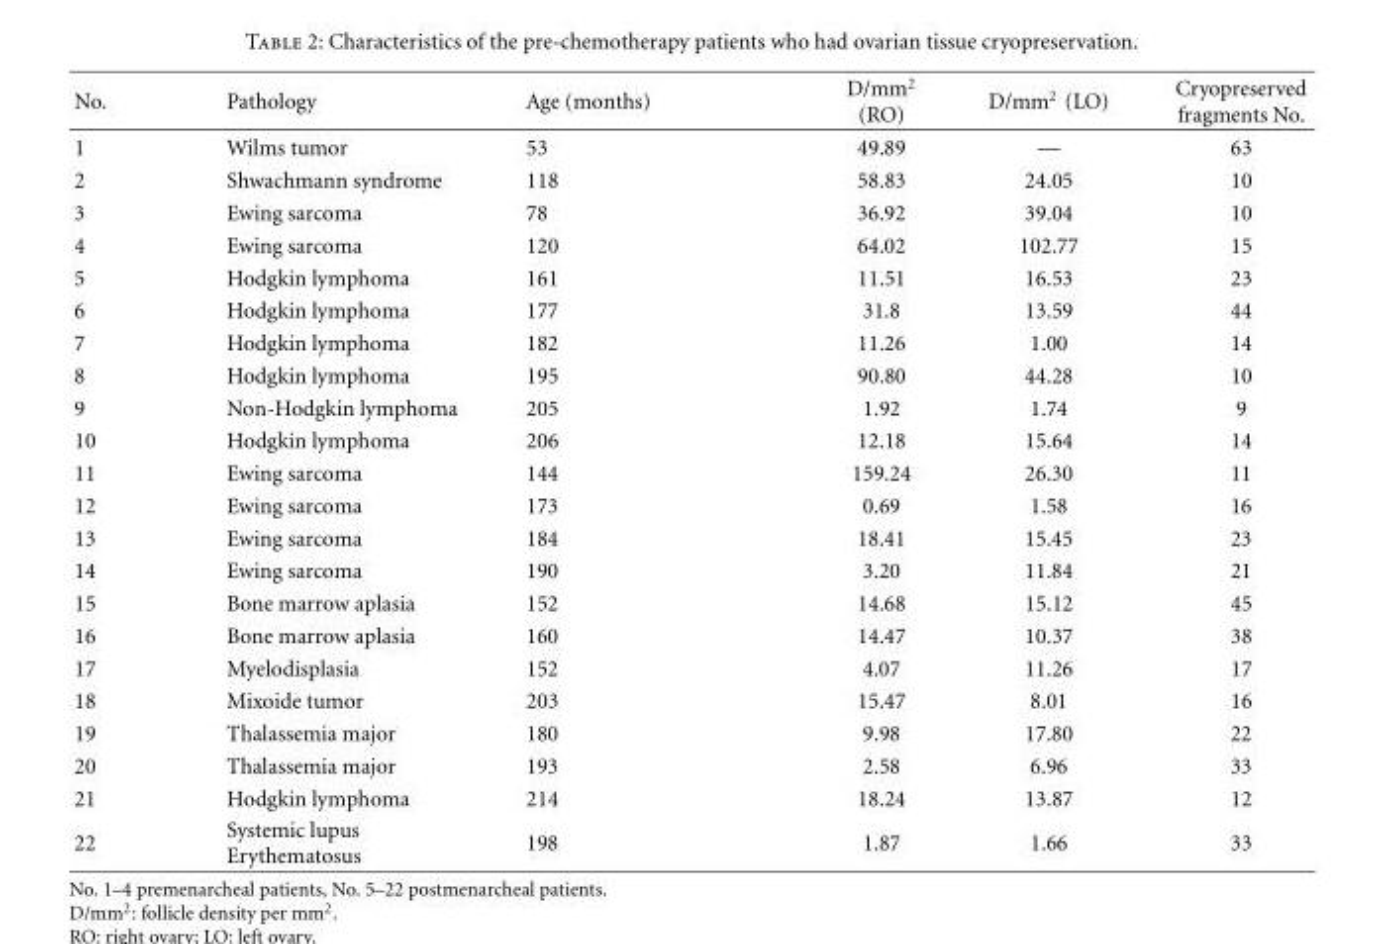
<table><thead><tr><td>No.</td><td>Pathology</td><td>Age (months)</td><td>D/mm<sup>2</sup> (RO)</td><td>D/mm<sup>2</sup> (LO)</td><td>Cryopreserved fragments No.</td></tr></thead><tbody><tr><td>1</td><td>Wilms tumor</td><td>53</td><td>49.89</td><td>—</td><td>63</td></tr><tr><td>2</td><td>Shwachmann syndrome</td><td>118</td><td>58.83</td><td>24.05</td><td>10</td></tr><tr><td>3</td><td>Ewing sarcoma</td><td>78</td><td>36.92</td><td>39.04</td><td>10</td></tr><tr><td>4</td><td>Ewing sarcoma</td><td>120</td><td>64.02</td><td>102.77</td><td>15</td></tr><tr><td>5</td><td>Hodgkin lymphoma</td><td>161</td><td>11.51</td><td>16.53</td><td>23</td></tr><tr><td>6</td><td>Hodgkin lymphoma</td><td>177</td><td>31.8</td><td>13.59</td><td>44</td></tr><tr><td>7</td><td>Hodgkin lymphoma</td><td>182</td><td>11.26</td><td>1.00</td><td>14</td></tr><tr><td>8</td><td>Hodgkin lymphoma</td><td>195</td><td>90.80</td><td>44.28</td><td>10</td></tr><tr><td>9</td><td>Non-Hodgkin lymphoma</td><td>205</td><td>1.92</td><td>1.74</td><td>9</td></tr><tr><td>10</td><td>Hodgkin lymphoma</td><td>206</td><td>12.18</td><td>15.64</td><td>14</td></tr><tr><td>11</td><td>Ewing sarcoma</td><td>144</td><td>159.24</td><td>26.30</td><td>11</td></tr><tr><td>12</td><td>Ewing sarcoma</td><td>173</td><td>0.69</td><td>1.58</td><td>16</td></tr><tr><td>13</td><td>Ewing sarcoma</td><td>184</td><td>18.41</td><td>15.45</td><td>23</td></tr><tr><td>14</td><td>Ewing sarcoma</td><td>190</td><td>3.20</td><td>11.84</td><td>21</td></tr><tr><td>15</td><td>Bone marrow aplasia</td><td>152</td><td>14.68</td><td>15.12</td><td>45</td></tr><tr><td>16</td><td>Bone marrow aplasia</td><td>160</td><td>14.47</td><td>10.37</td><td>38</td></tr><tr><td>17</td><td>Myelodisplasia</td><td>152</td><td>4.07</td><td>11.26</td><td>17</td></tr><tr><td>18</td><td>Mixoide tumor</td><td>203</td><td>15.47</td><td>8.01</td><td>16</td></tr><tr><td>19</td><td>Thalassemia major</td><td>180</td><td>9.98</td><td>17.80</td><td>22</td></tr><tr><td>20</td><td>Thalassemia major</td><td>193</td><td>2.58</td><td>6.96</td><td>33</td></tr><tr><td>21</td><td>Hodgkin lymphoma</td><td>214</td><td>18.24</td><td>13.87</td><td>12</td></tr><tr><td>22</td><td>Systemic lupus Erythematosus</td><td>198</td><td>1.87</td><td>1.66</td><td>33</td></tr></tbody></table>